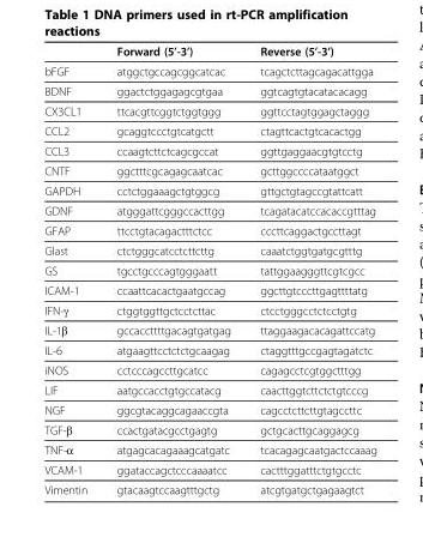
<table><thead><tr><td></td><td>Forward (5’-3’)</td><td>Reverse (5’-3’)</td></tr></thead><tbody><tr><td>bFGF</td><td>atggctgccagcggcatcac</td><td>tcagctcttagcagacattgga</td></tr><tr><td>BDNF</td><td>ggactctggagagcgtgaa</td><td>ggtcagtgtacatacacagg</td></tr><tr><td>CX3CL1</td><td>ttcacgttcggtctggtggg</td><td>ggttcctagtggagctaggg</td></tr><tr><td>CCL2</td><td>gcaggtccctgtcatgctt</td><td>ctagttcactgtcacactgg</td></tr><tr><td>CCL3</td><td>ccaagtcttctcagcgccat</td><td>ggttgaggaacgtgtcctg</td></tr><tr><td>CNTF</td><td>ggctttcgcagagcaatcac</td><td>gcttggccccataatggct</td></tr><tr><td>GAPDH</td><td>cctctggaaagctgtggcg</td><td>gttgctgtagccgtattcatt</td></tr><tr><td>GDNF</td><td>atgggattcgggccacttgg</td><td>tcagatacatccacaccgtttag</td></tr><tr><td>GFAP</td><td>ttcctgtacagactttctcc</td><td>cccttcaggactgccttagt</td></tr><tr><td>Glast</td><td>ctctgggcatcctcttcttg</td><td>caaatctggtgatgcgtttg</td></tr><tr><td>GS</td><td>tgcctgcccagtgggaatt</td><td>tattggaagggttcgtcgcc</td></tr><tr><td>ICAM-1</td><td>ccaattcacactgaatgccag</td><td>ggcttgtcccttgagttttatg</td></tr><tr><td>IFN-γ</td><td>ctggtggttgctcctcttac</td><td>ctcctgggcctctcctgtg</td></tr><tr><td>IL-1β</td><td>gccaccttttgacagtgatgag</td><td>ttaggaagacacagattccatg</td></tr><tr><td>IL-6</td><td>atgaagttcctctctgcaagag</td><td>ctaggtttgccgagtagatctc</td></tr><tr><td>iNOS</td><td>cctcccagccttgcatcc</td><td>cagagcctcgtggctttgg</td></tr><tr><td>LIF</td><td>aatgccacctgtgccatacg</td><td>caacttggtcttctctgtcccg</td></tr><tr><td>NGF</td><td>ggcgtacaggcagaaccgta</td><td>cagcctcttcttgtagccttc</td></tr><tr><td>TGF-β</td><td>ccactgatacgcctgagtg</td><td>gctgcacttgcaggagcg</td></tr><tr><td>TNF-α</td><td>atgagcacagaaagcatgatc</td><td>tcacagagcaatgactccaaag</td></tr><tr><td>VCAM-1</td><td>ggataccagctcccaaaatcc</td><td>cactttggatttctgtgcctc</td></tr><tr><td>Vimentin</td><td>gtacaagtccaagtttgctg</td><td>atcgtgatgctgagaagtct</td></tr></tbody></table>